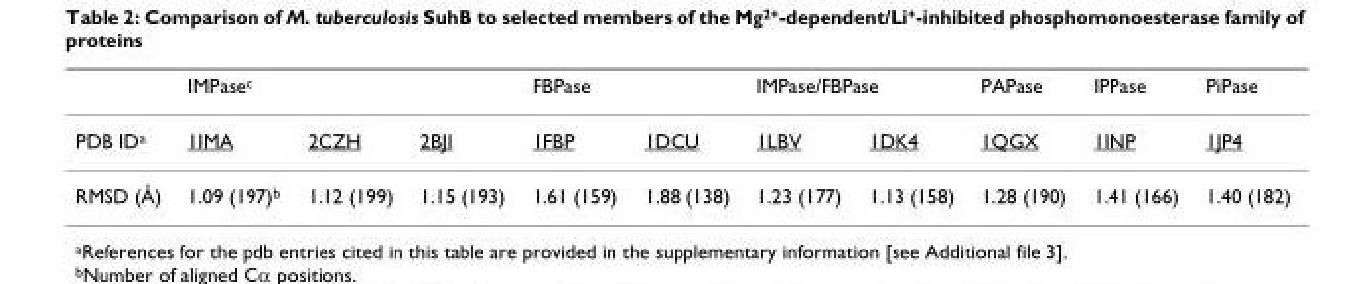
<table><thead><tr><td rowspan="2">PDB ID<sup>a</sup></td><td colspan="3">IMPase<sup>c</sup></td><td colspan="2">FBPase</td><td colspan="2">IMPase/FBPase</td><td rowspan="2">PAPase 1QGX</td><td rowspan="2">IPPase 1INP</td><td rowspan="2">PiPase 1JP4</td></tr><tr><td>1IMA</td><td>2CZH</td><td>2BJI</td><td>1FBP</td><td>1DCU</td><td>1LBV</td><td>1DK4</td></tr></thead><tbody><tr><td>RMSD (Å)</td><td>1.09 (197)<sup>b</sup></td><td>1.12 (199)</td><td>1.15 (193)</td><td>1.61 (159)</td><td>1.88 (138)</td><td>1.23 (177)</td><td>1.13 (158)</td><td>1.28 (190)</td><td>1.41 (166)</td><td>1.40 (182)</td></tr></tbody></table>